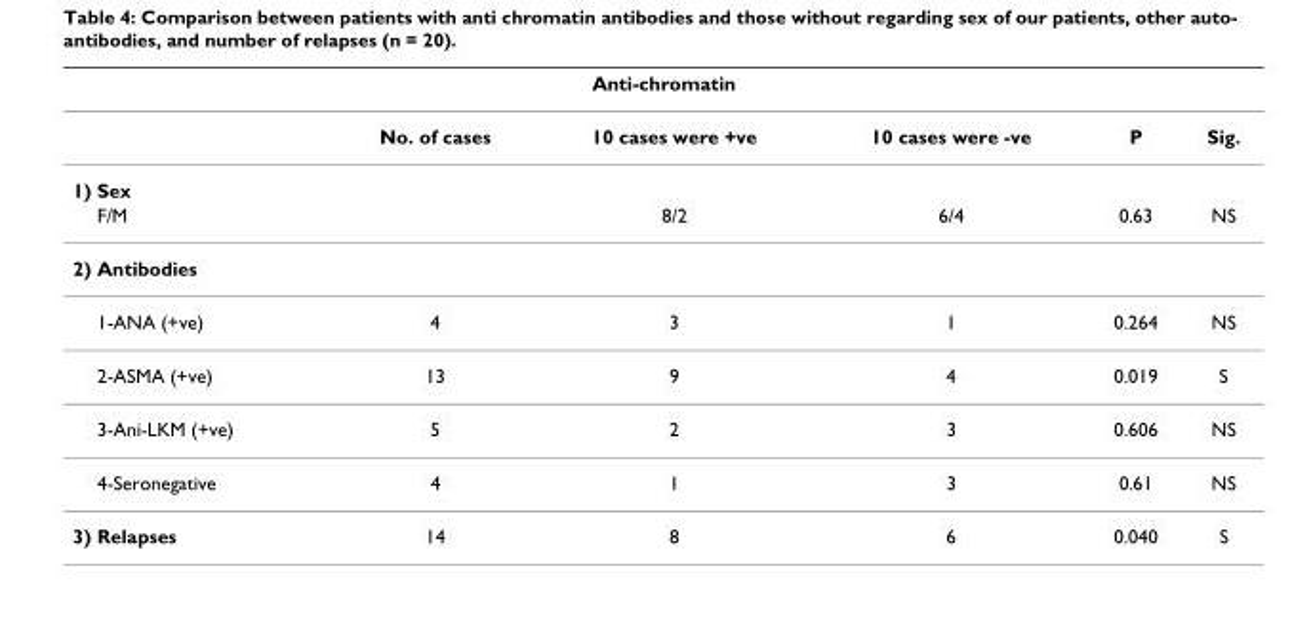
<table><thead><tr><td colspan="6">Anti-chromatin</td></tr><tr><td></td><td>No. of cases</td><td>10 cases were +ve</td><td>10 cases were -ve</td><td>P</td><td>Sig.</td></tr></thead><tbody><tr><td colspan="6">1) Sex</td></tr><tr><td>F/M</td><td></td><td>8/2</td><td>6/4</td><td>0.63</td><td>NS</td></tr><tr><td colspan="6">2) Antibodies</td></tr><tr><td>1-ANA (+ve)</td><td>4</td><td>3</td><td>1</td><td>0.264</td><td>NS</td></tr><tr><td>2-ASMA (+ve)</td><td>13</td><td>9</td><td>4</td><td>0.019</td><td>S</td></tr><tr><td>3-Ani-LKM (+ve)</td><td>5</td><td>2</td><td>3</td><td>0.606</td><td>NS</td></tr><tr><td>4-Seronegative</td><td>4</td><td>1</td><td>3</td><td>0.61</td><td>NS</td></tr><tr><td>3) Relapses</td><td>14</td><td>8</td><td>6</td><td>0.040</td><td>S</td></tr></tbody></table>